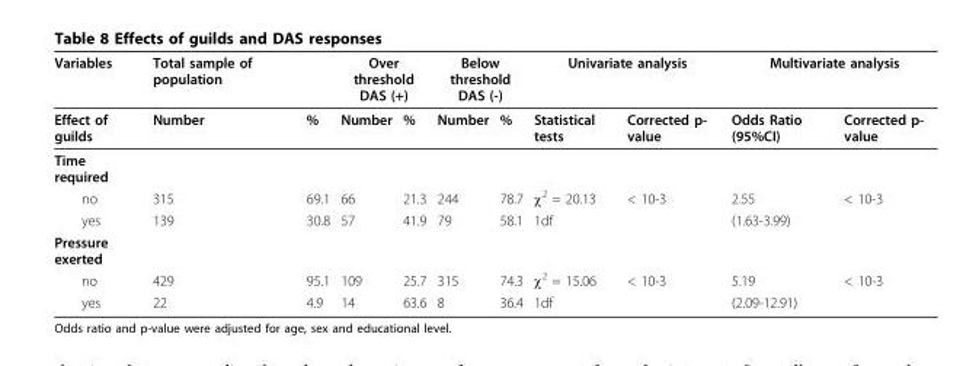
<table><thead><tr><td rowspan="2">Variables Effect of guilds</td><td rowspan="2">Total sample of population Number</td><td rowspan="2">%</td><td colspan="2">Over threshold DAS (+)</td><td colspan="2">Below threshold DAS (-)</td><td colspan="2">Univariate analysis</td><td colspan="2">Multivariate analysis</td></tr><tr><td>Number</td><td>%</td><td>Number</td><td>%</td><td>Statistical tests</td><td>Corrected p- value</td><td>Odds Ratio (95%CI)</td><td>Corrected p- value</td></tr></thead><tbody><tr><td colspan="11">Time required</td></tr><tr><td>no</td><td>315</td><td>69.1</td><td>66</td><td>21.3</td><td>244</td><td>78.7</td><td>χ<sup>2</sup> = 20.13</td><td>&lt; 10-3</td><td>2.55</td><td>&lt; 10-3</td></tr><tr><td>yes</td><td>139</td><td>30.8</td><td>57</td><td>41.9</td><td>79</td><td>58.1</td><td>1df</td><td></td><td>(1.63-3.99)</td><td></td></tr><tr><td colspan="11">Pressure exerted</td></tr><tr><td>no</td><td>429</td><td>95.1</td><td>109</td><td>25.7</td><td>315</td><td>74.3</td><td>χ<sup>2</sup> = 15.06</td><td>&lt; 10-3</td><td>5.19</td><td>&lt; 10-3</td></tr><tr><td>yes</td><td>22</td><td>4.9</td><td>14</td><td>63.6</td><td>8</td><td>36.4</td><td>1df</td><td></td><td>(2.09-12.91)</td><td></td></tr></tbody></table>